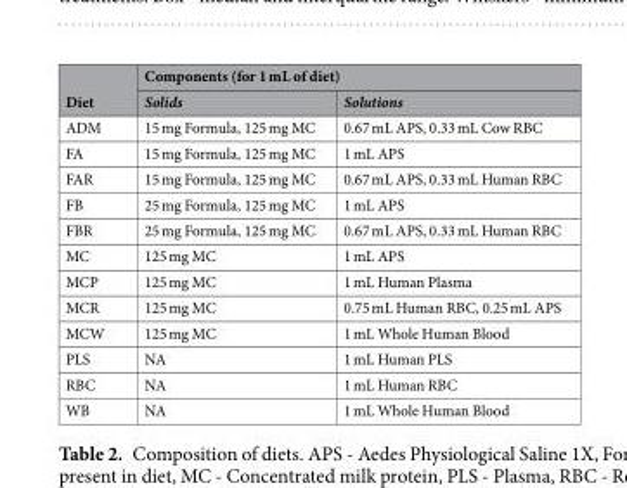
<table><thead><tr><td rowspan="2">Diet</td><td colspan="2">Components (for 1 mL of diet)</td></tr><tr><td>Solids</td><td>Solutions</td></tr></thead><tbody><tr><td>ADM</td><td>15 mg Formula, 125 mg MC</td><td>0.67 mL APS, 0.33 mL Cow RBC</td></tr><tr><td>FA</td><td>15 mg Formula, 125 mg MC</td><td>1 mL APS</td></tr><tr><td>FAR</td><td>15 mg Formula, 125 mg MC</td><td>0.67 mL APS, 0.33 mL Human RBC</td></tr><tr><td>FB</td><td>25 mg Formula, 125 mg MC</td><td>1 mL APS</td></tr><tr><td>FBR</td><td>25 mg Formula, 125 mg MC</td><td>0.67 mL APS, 0.33 mL Human RBC</td></tr><tr><td>MC</td><td>125 mg MC</td><td>1 mL APS</td></tr><tr><td>MCP</td><td>125 mg MC</td><td>1 mL Human Plasma</td></tr><tr><td>MCR</td><td>125 mg MC</td><td>0.75 mL Human RBC, 0.25 mL APS</td></tr><tr><td>MCW</td><td>125 mg MC</td><td>1 mL Whole Human Blood</td></tr><tr><td>PLS</td><td>NA</td><td>1 mL Human PLS</td></tr><tr><td>RBC</td><td>NA</td><td>1 mL Human RBC</td></tr><tr><td>WB</td><td>NA</td><td>1 mL Whole Human Blood</td></tr></tbody></table>